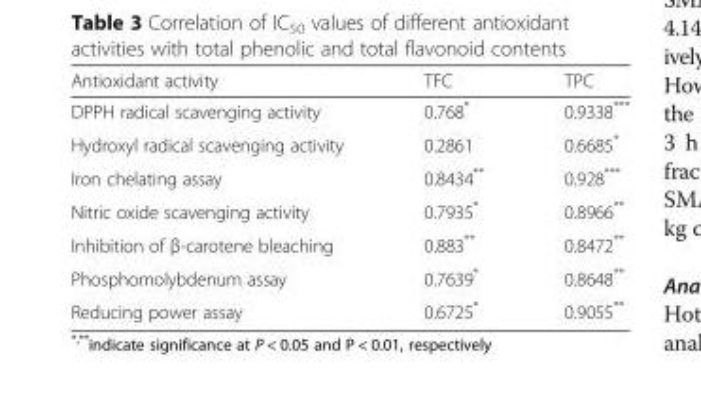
<table><thead><tr><td>Antioxidant activity</td><td>TFC</td><td>TPC</td></tr></thead><tbody><tr><td>DPPH radical scavenging activity</td><td>0.768*</td><td>0.9338***</td></tr><tr><td>Hydroxyl radical scavenging activity</td><td>0.2861</td><td>0.6685*</td></tr><tr><td>Iron chelating assay</td><td>0.8434**</td><td>0.928***</td></tr><tr><td>Nitric oxide scavenging activity</td><td>0.7935*</td><td>0.8966**</td></tr><tr><td>Inhibition of β-carotene bleaching</td><td>0.883**</td><td>0.8472**</td></tr><tr><td>Phosphomolybdenum assay</td><td>0.7639*</td><td>0.8648**</td></tr><tr><td>Reducing power assay</td><td>0.6725*</td><td>0.9055**</td></tr></tbody></table>